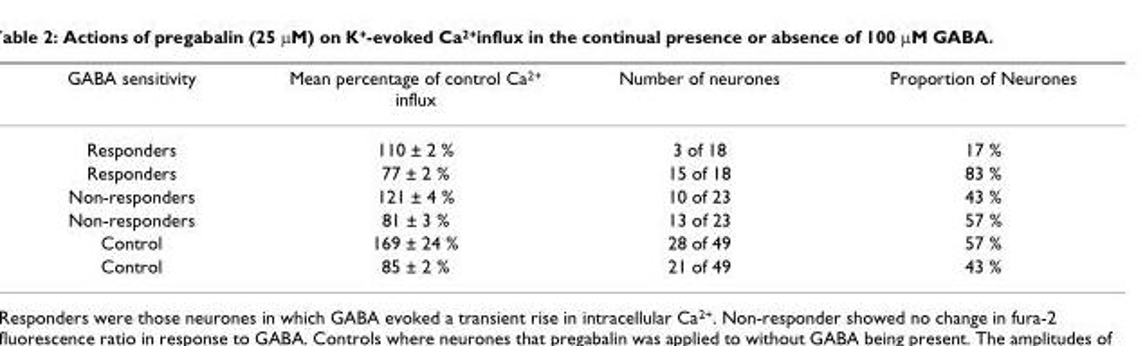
<table><thead><tr><td>GABA sensitivity</td><td>Mean percentage of control Ca<sup>2+</sup> influx</td><td>Number of neurones</td><td>Proportion of Neurones</td></tr></thead><tbody><tr><td>Responders</td><td>110 ± 2 %</td><td>3 of 18</td><td>17 %</td></tr><tr><td>Responders</td><td>77 ± 2 %</td><td>15 of 18</td><td>83 %</td></tr><tr><td>Non-responders</td><td>121 ± 4 %</td><td>10 of 23</td><td>43 %</td></tr><tr><td>Non-responders</td><td>81 ± 3 %</td><td>13 of 23</td><td>57 %</td></tr><tr><td>Control</td><td>169 ± 24 %</td><td>28 of 49</td><td>57 %</td></tr><tr><td>Control</td><td>85 ± 2 %</td><td>21 of 49</td><td>43 %</td></tr></tbody></table>